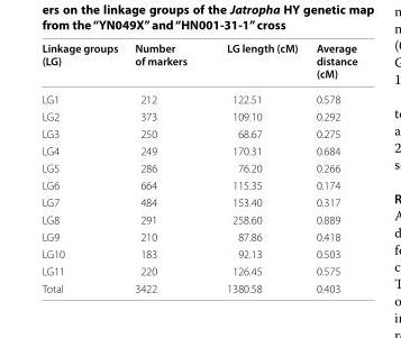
<table><thead><tr><td>Linkage groups (LG)</td><td>Number of markers</td><td>LG length (cM)</td><td>Average distance (cM)</td></tr></thead><tbody><tr><td>LG1</td><td>212</td><td>122.51</td><td>0.578</td></tr><tr><td>LG2</td><td>373</td><td>109.10</td><td>0.292</td></tr><tr><td>LG3</td><td>250</td><td>68.67</td><td>0.275</td></tr><tr><td>LG4</td><td>249</td><td>170.31</td><td>0.684</td></tr><tr><td>LG5</td><td>286</td><td>76.20</td><td>0.266</td></tr><tr><td>LG6</td><td>664</td><td>115.35</td><td>0.174</td></tr><tr><td>LG7</td><td>484</td><td>153.40</td><td>0.317</td></tr><tr><td>LG8</td><td>291</td><td>258.60</td><td>0.889</td></tr><tr><td>LG9</td><td>210</td><td>87.86</td><td>0.418</td></tr><tr><td>LG10</td><td>183</td><td>92.13</td><td>0.503</td></tr><tr><td>LG11</td><td>220</td><td>126.45</td><td>0.575</td></tr><tr><td>Total</td><td>3422</td><td>1380.58</td><td>0.403</td></tr></tbody></table>